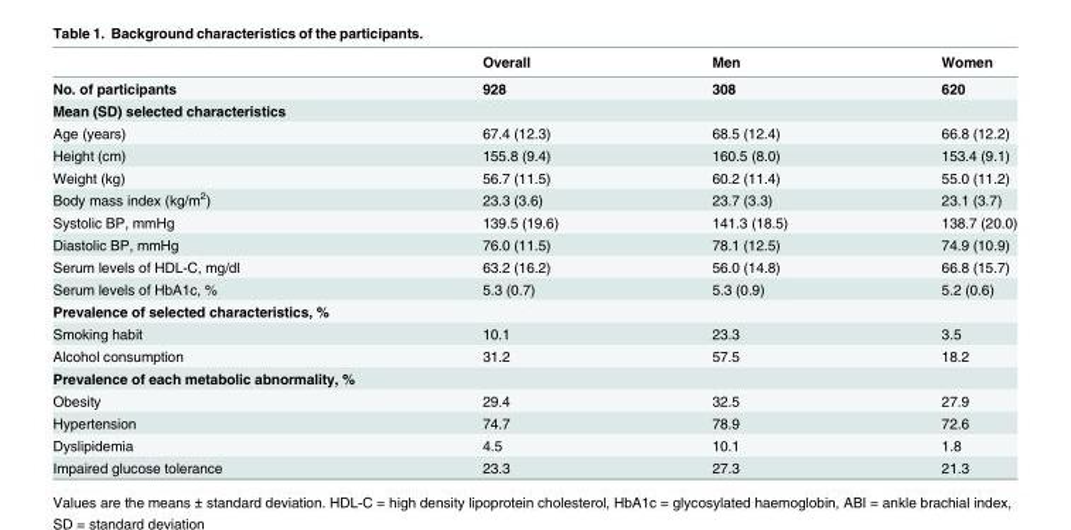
<table><thead><tr><td></td><td>Overall</td><td>Men</td><td>Women</td></tr></thead><tbody><tr><td>No. of participants</td><td>928</td><td>308</td><td>620</td></tr><tr><td colspan="4">Mean (SD) selected characteristics</td></tr><tr><td>Age (years)</td><td>67.4 (12.3)</td><td>68.5 (12.4)</td><td>66.8 (12.2)</td></tr><tr><td>Height (cm)</td><td>155.8 (9.4)</td><td>160.5 (8.0)</td><td>153.4 (9.1)</td></tr><tr><td>Weight (kg)</td><td>56.7 (11.5)</td><td>60.2 (11.4)</td><td>55.0 (11.2)</td></tr><tr><td>Body mass index (kg/m<sup>2</sup>)</td><td>23.3 (3.6)</td><td>23.7 (3.3)</td><td>23.1 (3.7)</td></tr><tr><td>Systolic BP, mmHg</td><td>139.5 (19.6)</td><td>141.3 (18.5)</td><td>138.7 (20.0)</td></tr><tr><td>Diastolic BP, mmHg</td><td>76.0 (11.5)</td><td>78.1 (12.5)</td><td>74.9 (10.9)</td></tr><tr><td>Serum levels of HDL-C, mg/dl</td><td>63.2 (16.2)</td><td>56.0 (14.8)</td><td>66.8 (15.7)</td></tr><tr><td>Serum levels of HbA1c, %</td><td>5.3 (0.7)</td><td>5.3 (0.9)</td><td>5.2 (0.6)</td></tr><tr><td colspan="4">Prevalence of selected characteristics, %</td></tr><tr><td>Smoking habit</td><td>10.1</td><td>23.3</td><td>3.5</td></tr><tr><td>Alcohol consumption</td><td>31.2</td><td>57.5</td><td>18.2</td></tr><tr><td colspan="4">Prevalence of each metabolic abnormality, %</td></tr><tr><td>Obesity</td><td>29.4</td><td>32.5</td><td>27.9</td></tr><tr><td>Hypertension</td><td>74.7</td><td>78.9</td><td>72.6</td></tr><tr><td>Dyslipidemia</td><td>4.5</td><td>10.1</td><td>1.8</td></tr><tr><td>Impaired glucose tolerance</td><td>23.3</td><td>27.3</td><td>21.3</td></tr></tbody></table>